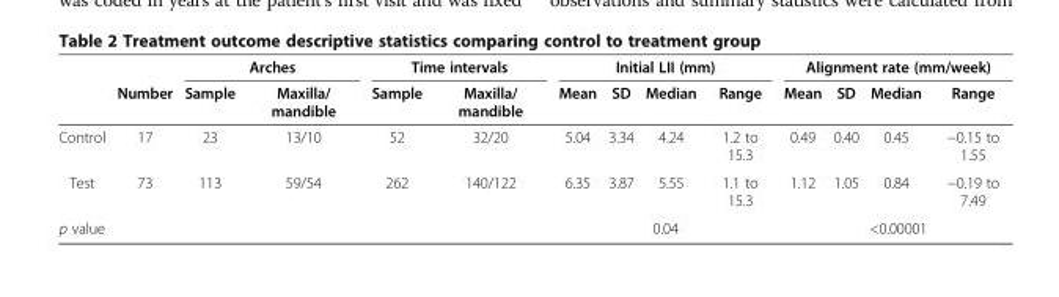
<table><thead><tr><td rowspan="2"></td><td rowspan="2">Number</td><td colspan="2">Arches</td><td colspan="2">Time intervals</td><td colspan="4">Initial LII (mm)</td><td colspan="4">Alignment rate (mm/week)</td></tr><tr><td>Sample</td><td>Maxilla/ mandible</td><td>Sample</td><td>Maxilla/ mandible</td><td>Mean</td><td>SD</td><td>Median</td><td>Range</td><td>Mean</td><td>SD</td><td>Median</td><td>Range</td></tr></thead><tbody><tr><td>Control</td><td>17</td><td>23</td><td>13/10</td><td>52</td><td>32/20</td><td>5.04</td><td>3.34</td><td>4.24</td><td>1.2 to 15.3</td><td>0.49</td><td>0.40</td><td>0.45</td><td>−0.15 to 1.55</td></tr><tr><td>Test</td><td>73</td><td>113</td><td>59/54</td><td>262</td><td>140/122</td><td>6.35</td><td>3.87</td><td>5.55</td><td>1.1 to 15.3</td><td>1.12</td><td>1.05</td><td>0.84</td><td>−0.19 to 7.49</td></tr><tr><td>p value</td><td></td><td></td><td></td><td></td><td></td><td></td><td></td><td>0.04</td><td></td><td></td><td></td><td>&lt;0.00001</td><td></td></tr></tbody></table>